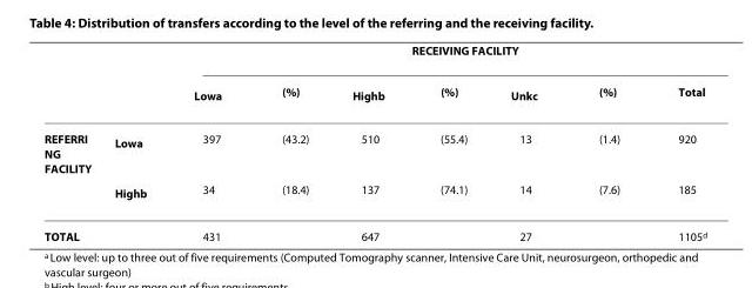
<table><thead><tr><td rowspan="2"></td><td rowspan="2"></td><td colspan="7">RECEIVING FACILITY</td></tr><tr><td>Low<sup>a</sup></td><td>(%)</td><td>High<sup>b</sup></td><td>(%)</td><td>Unk<sup>c</sup></td><td>(%)</td><td>Total</td></tr></thead><tbody><tr><td rowspan="2">REFERRI NG FACILITY</td><td>Low<sup>a</sup></td><td>397</td><td>(43.2)</td><td>510</td><td>(55.4)</td><td>13</td><td>(1.4)</td><td>920</td></tr><tr><td>High<sup>b</sup></td><td>34</td><td>(18.4)</td><td>137</td><td>(74.1)</td><td>14</td><td>(7.6)</td><td>185</td></tr><tr><td>TOTAL</td><td></td><td>431</td><td></td><td>647</td><td></td><td>27</td><td></td><td>1105<sup>d</sup></td></tr></tbody></table>